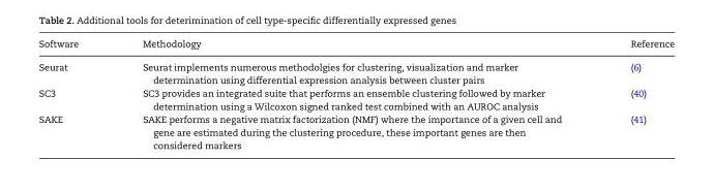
<table><thead><tr><td>Software</td><td>Methodology</td><td>Reference</td></tr></thead><tbody><tr><td>Seurat</td><td>Seurat implements numerous methodolgies for clustering, visualization and marker determination using differential expression analysis between cluster pairs</td><td>(6)</td></tr><tr><td>SC3</td><td>SC3 provides an integrated suite that performs an ensemble clustering followed by marker determination using a Wilcoxon signed ranked test combined with an AUROC analysis</td><td>(40)</td></tr><tr><td>SAKE</td><td>SAKE performs a negative matrix factorization (NMF) where the importance of a given cell and gene are estimated during the clustering procedure, these important genes are then considered markers</td><td>(41)</td></tr></tbody></table>